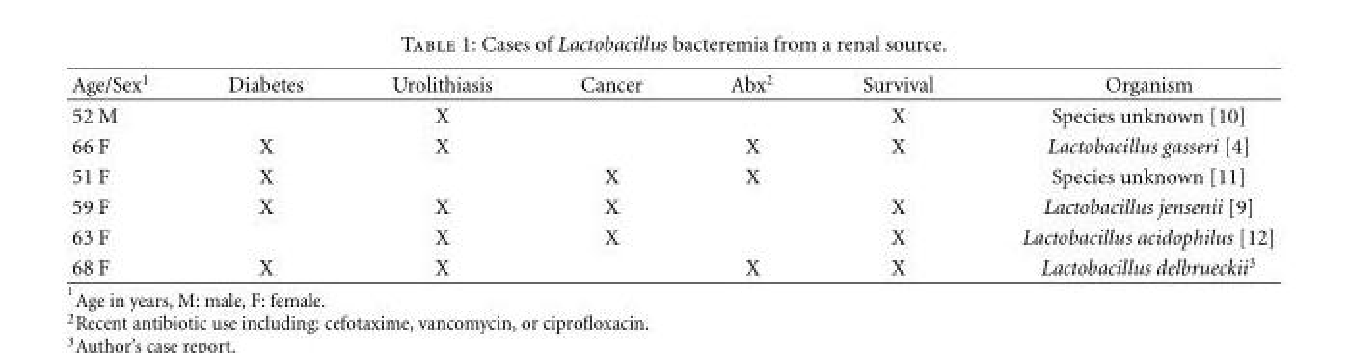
<table><thead><tr><td>Age/Sex<sup>1</sup></td><td>Diabetes</td><td>Urolithiasis</td><td>Cancer</td><td>Abx<sup>2</sup></td><td>Survival</td><td>Organism</td></tr></thead><tbody><tr><td>52 M</td><td></td><td>X</td><td></td><td></td><td>X</td><td>Species unknown [10]</td></tr><tr><td>66 F</td><td>X</td><td>X</td><td></td><td>X</td><td>X</td><td>Lactobacillus gasseri [4]</td></tr><tr><td>51 F</td><td>X</td><td></td><td>X</td><td>X</td><td></td><td>Species unknown [11]</td></tr><tr><td>59 F</td><td>X</td><td>X</td><td>X</td><td></td><td>X</td><td>Lactobacillus jensenii [9]</td></tr><tr><td>63 F</td><td></td><td>X</td><td>X</td><td></td><td>X</td><td>Lactobacillus acidophilus [12]</td></tr><tr><td>68 F</td><td>X</td><td>X</td><td></td><td>X</td><td>X</td><td>Lactobacillus delbrueckii<sup>3</sup></td></tr></tbody></table>